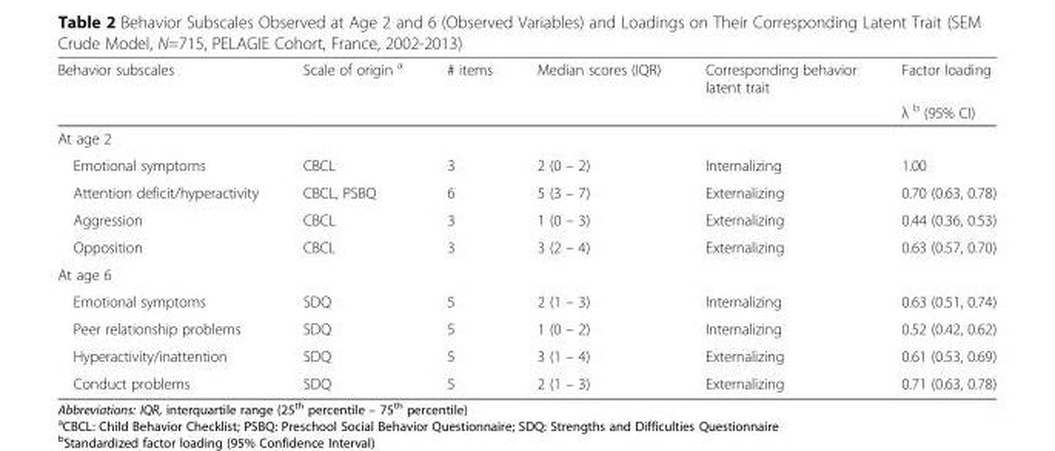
<table><thead><tr><td rowspan="2">Behavior subscales</td><td rowspan="2">Scale of origin <sup>a</sup></td><td rowspan="2"># items</td><td rowspan="2">Median scores (IQR)</td><td rowspan="2">Corresponding behavior latent trait</td><td rowspan="2">Factor loading λ <sup>b</sup> (95% CI)</td></tr><tr></tr></thead><tbody><tr><td colspan="6">At age 2</td></tr><tr><td>Emotional symptoms</td><td>CBCL</td><td>3</td><td>2 (0 – 2)</td><td>Internalizing</td><td>1.00</td></tr><tr><td>Attention deficit/hyperactivity</td><td>CBCL, PSBQ</td><td>6</td><td>5 (3 – 7)</td><td>Externalizing</td><td>0.70 (0.63, 0.78)</td></tr><tr><td>Aggression</td><td>CBCL</td><td>3</td><td>1 (0 – 3)</td><td>Externalizing</td><td>0.44 (0.36, 0.53)</td></tr><tr><td>Opposition</td><td>CBCL</td><td>3</td><td>3 (2 – 4)</td><td>Externalizing</td><td>0.63 (0.57, 0.70)</td></tr><tr><td colspan="6">At age 6</td></tr><tr><td>Emotional symptoms</td><td>SDQ</td><td>5</td><td>2 (1 – 3)</td><td>Internalizing</td><td>0.63 (0.51, 0.74)</td></tr><tr><td>Peer relationship problems</td><td>SDQ</td><td>5</td><td>1 (0 – 2)</td><td>Internalizing</td><td>0.52 (0.42, 0.62)</td></tr><tr><td>Hyperactivity/inattention</td><td>SDQ</td><td>5</td><td>3 (1 – 4)</td><td>Externalizing</td><td>0.61 (0.53, 0.69)</td></tr><tr><td>Conduct problems</td><td>SDQ</td><td>5</td><td>2 (1 – 3)</td><td>Externalizing</td><td>0.71 (0.63, 0.78)</td></tr></tbody></table>